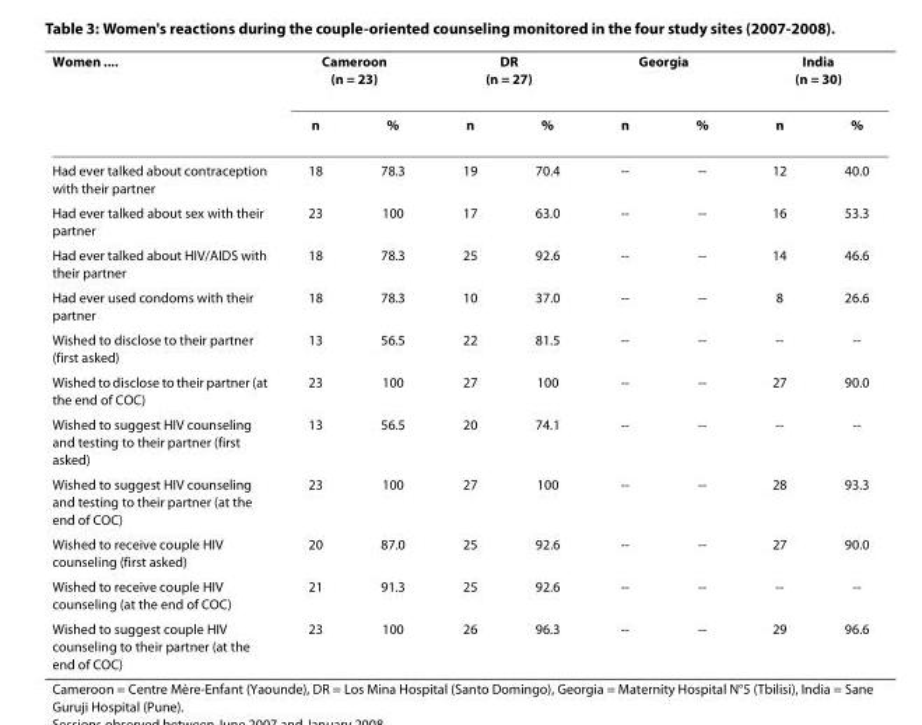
<table><thead><tr><td rowspan="2">Women ....</td><td colspan="2">Cameroon (n = 23)</td><td colspan="2">DR (n = 27)</td><td colspan="2">Georgia</td><td colspan="2">India (n = 30)</td></tr><tr><td>n</td><td>%</td><td>n</td><td>%</td><td>n</td><td>%</td><td>n</td><td>%</td></tr></thead><tbody><tr><td>Had ever talked about contraception with their partner</td><td>18</td><td>78.3</td><td>19</td><td>70.4</td><td>--</td><td>--</td><td>12</td><td>40.0</td></tr><tr><td>Had ever talked about sex with their partner</td><td>23</td><td>100</td><td>17</td><td>63.0</td><td>--</td><td>--</td><td>16</td><td>53.3</td></tr><tr><td>Had ever talked about HIV/AIDS with their partner</td><td>18</td><td>78.3</td><td>25</td><td>92.6</td><td>--</td><td>--</td><td>14</td><td>46.6</td></tr><tr><td>Had ever used condoms with their partner</td><td>18</td><td>78.3</td><td>10</td><td>37.0</td><td>--</td><td>--</td><td>8</td><td>26.6</td></tr><tr><td>Wished to disclose to their partner (first asked)</td><td>13</td><td>56.5</td><td>22</td><td>81.5</td><td>--</td><td>--</td><td>--</td><td>--</td></tr><tr><td>Wished to disclose to their partner (at the end of COC)</td><td>23</td><td>100</td><td>27</td><td>100</td><td>--</td><td>--</td><td>27</td><td>90.0</td></tr><tr><td>Wished to suggest HIV counseling and testing to their partner (first asked)</td><td>13</td><td>56.5</td><td>20</td><td>74.1</td><td>--</td><td>--</td><td>--</td><td>--</td></tr><tr><td>Wished to suggest HIV counseling and testing to their partner (at the end of COC)</td><td>23</td><td>100</td><td>27</td><td>100</td><td>--</td><td>--</td><td>28</td><td>93.3</td></tr><tr><td>Wished to receive couple HIV counseling (first asked)</td><td>20</td><td>87.0</td><td>25</td><td>92.6</td><td>--</td><td>--</td><td>27</td><td>90.0</td></tr><tr><td>Wished to receive couple HIV counseling (at the end of COC)</td><td>21</td><td>91.3</td><td>25</td><td>92.6</td><td>--</td><td>--</td><td>--</td><td>--</td></tr><tr><td>Wished to suggest couple HIV counseling to their partner (at the end of COC)</td><td>23</td><td>100</td><td>26</td><td>96.3</td><td>--</td><td>--</td><td>29</td><td>96.6</td></tr></tbody></table>